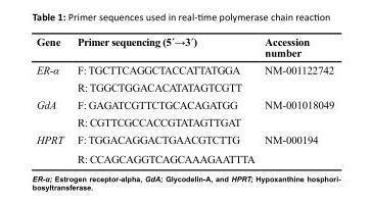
<table><thead><tr><td>Gene</td><td>Primer sequencing (5´→3´)</td><td>Accession number</td></tr></thead><tbody><tr><td rowspan="2">ER-α</td><td>F: TGCTTCAGGCTACCATTATGGA</td><td rowspan="2">NM-001122742</td></tr><tr><td>R: TGGCTGGACACATATAGTCGTT</td></tr><tr><td rowspan="2">GdA</td><td>F: GAGATCGTTCTGCACAGATGG</td><td rowspan="2">NM-001018049</td></tr><tr><td>R: CGTTCGCCACCGTATAGTTGAT</td></tr><tr><td rowspan="2">HPRT</td><td>F: TGGACAGGACTGAACGTCTTG</td><td rowspan="2">NM-000194</td></tr><tr><td>R: CCAGCAGGTCAGCAAAGAATTTA</td></tr></tbody></table>